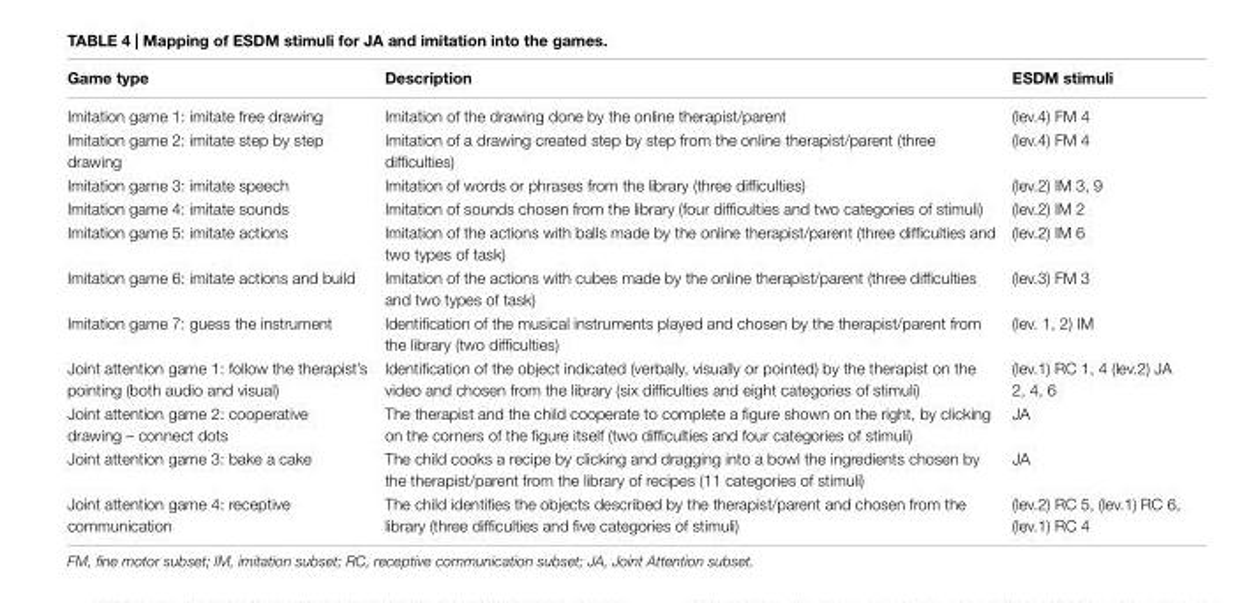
<table><thead><tr><td>Game type</td><td>description</td><td>esdM stimuli</td></tr></thead><tbody><tr><td>Imitation game 1: imitate free drawing</td><td>Imitation of the drawing done by the online therapist/parent</td><td>(lev.4) FM 4</td></tr><tr><td>Imitation game 2: imitate step by step drawing</td><td>Imitation of a drawing created step by step from the online therapist/parent (three difficulties)</td><td>(lev.4) FM 4</td></tr><tr><td>Imitation game 3: imitate speech</td><td>Imitation of words or phrases from the library (three difficulties)</td><td>(lev.2) IM 3, 9</td></tr><tr><td>Imitation game 4: imitate sounds</td><td>Imitation of sounds chosen from the library (four difficulties and two categories of stimuli)</td><td>(lev.2) IM 2</td></tr><tr><td>Imitation game 5: imitate actions</td><td>Imitation of the actions with balls made by the online therapist/parent (three difficulties and two types of task)</td><td>(lev.2) IM 6</td></tr><tr><td>Imitation game 6: imitate actions and build</td><td>Imitation of the actions with cubes made by the online therapist/parent (three difficulties and two types of task)</td><td>(lev.3) FM 3</td></tr><tr><td>Imitation game 7: guess the instrument</td><td>Identification of the musical instruments played and chosen by the therapist/parent from the library (two difficulties)</td><td>(lev. 1, 2) IM</td></tr><tr><td>Joint attention game 1: follow the therapist’s pointing (both audio and visual)</td><td>Identification of the object indicated (verbally, visually or pointed) by the therapist on the video and chosen from the library (six difficulties and eight categories of stimuli)</td><td>(lev.1) RC 1, 4 (lev.2) JA 2, 4, 6</td></tr><tr><td>Joint attention game 2: cooperative drawing – connect dots</td><td>The therapist and the child cooperate to complete a figure shown on the right, by clicking on the corners of the figure itself (two difficulties and four categories of stimuli)</td><td>JA</td></tr><tr><td>Joint attention game 3: bake a cake</td><td>The child cooks a recipe by clicking and dragging into a bowl the ingredients chosen by the therapist/parent from the library of recipes (11 categories of stimuli)</td><td>JA</td></tr><tr><td>Joint attention game 4: receptive communication</td><td>The child identifies the objects described by the therapist/parent and chosen from the library (three difficulties and five categories of stimuli)</td><td>(lev.2) RC 5, (lev.1) RC 6, (lev.1) RC 4</td></tr></tbody></table>